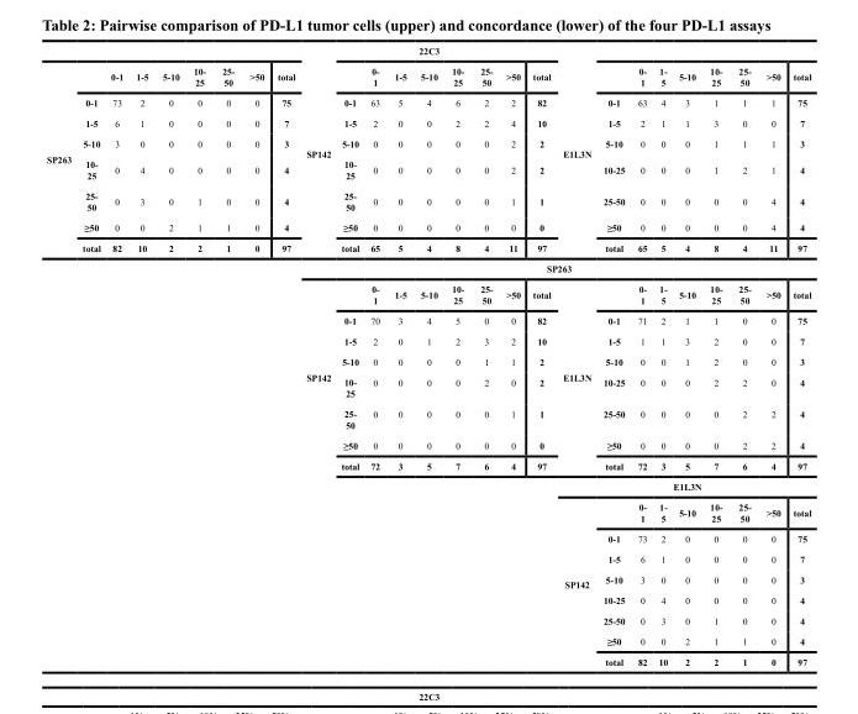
<table><tbody><tr><td colspan="27">22C3</td></tr><tr><td rowspan="26">SP263</td><td></td><td>0-1</td><td>1-5</td><td>5-10</td><td>10- 25</td><td>25- 50</td><td>&gt;50</td><td>total</td><td rowspan="8">SP142</td><td></td><td>0- 1</td><td>1-5</td><td>5-10</td><td>10- 25</td><td>25- 50</td><td>&gt;50</td><td>total</td><td rowspan="8">E1L3N</td><td></td><td>0- 1</td><td>1- 5</td><td>5-10</td><td>10- 25</td><td>25- 50</td><td>&gt;50</td><td>total</td></tr><tr><td>0-1</td><td>73</td><td>2</td><td>0</td><td>0</td><td>0</td><td>0</td><td>75</td><td>0-1</td><td>63</td><td>5</td><td>4</td><td>6</td><td>2</td><td>2</td><td>82</td><td>0-1</td><td>63</td><td>4</td><td>3</td><td>1</td><td>1</td><td>1</td><td>75</td></tr><tr><td>1-5</td><td>6</td><td>1</td><td>0</td><td>0</td><td>0</td><td>0</td><td>7</td><td>1-5</td><td>2</td><td>0</td><td>0</td><td>2</td><td>2</td><td>4</td><td>10</td><td>1-5</td><td>2</td><td>1</td><td>1</td><td>3</td><td>0</td><td>0</td><td>7</td></tr><tr><td>5-10</td><td>3</td><td>0</td><td>0</td><td>0</td><td>0</td><td>0</td><td>3</td><td>5-10</td><td>0</td><td>0</td><td>0</td><td>0</td><td>0</td><td>2</td><td>2</td><td>5-10</td><td>0</td><td>0</td><td>0</td><td>1</td><td>1</td><td>1</td><td>3</td></tr><tr><td>10- 25</td><td>0</td><td>4</td><td>0</td><td>0</td><td>0</td><td>0</td><td>4</td><td>10- 25</td><td>0</td><td>0</td><td>0</td><td>0</td><td>0</td><td>2</td><td>2</td><td>10-25</td><td>0</td><td>0</td><td>0</td><td>1</td><td>2</td><td>1</td><td>4</td></tr><tr><td>25- 50</td><td>0</td><td>3</td><td>0</td><td>1</td><td>0</td><td>0</td><td>4</td><td>25- 50</td><td>0</td><td>0</td><td>0</td><td>0</td><td>0</td><td>1</td><td>1</td><td>25-50</td><td>0</td><td>0</td><td>0</td><td>0</td><td>0</td><td>4</td><td>4</td></tr><tr><td>≥50</td><td>0</td><td>0</td><td>2</td><td>1</td><td>1</td><td>0</td><td>4</td><td>≥50</td><td>0</td><td>0</td><td>0</td><td>0</td><td>0</td><td>0</td><td>0</td><td>≥50</td><td>0</td><td>0</td><td>0</td><td>0</td><td>0</td><td>4</td><td>4</td></tr><tr><td>total</td><td>82</td><td>10</td><td>2</td><td>2</td><td>1</td><td>0</td><td>97</td><td>total</td><td>65</td><td>5</td><td>4</td><td>8</td><td>4</td><td>11</td><td>97</td><td>total</td><td>65</td><td>5</td><td>4</td><td>8</td><td>4</td><td>11</td><td>97</td></tr><tr><td></td><td></td><td></td><td></td><td></td><td></td><td></td><td></td><td colspan="18">SP263</td></tr><tr><td></td><td></td><td></td><td></td><td></td><td></td><td></td><td></td><td rowspan="8">SP142</td><td></td><td>0- 1</td><td>1-5</td><td>5-10</td><td>10- 25</td><td>25- 50</td><td>&gt;50</td><td>total</td><td rowspan="8">E1L3N</td><td></td><td>0- 1</td><td>1- 5</td><td>5-10</td><td>10- 25</td><td>25- 50</td><td>&gt;50</td><td>total</td></tr><tr><td></td><td></td><td></td><td></td><td></td><td></td><td></td><td></td><td>0-1</td><td>70</td><td>3</td><td>4</td><td>5</td><td>0</td><td>0</td><td>82</td><td>0-1</td><td>71</td><td>2</td><td>1</td><td>1</td><td>0</td><td>0</td><td>75</td></tr><tr><td></td><td></td><td></td><td></td><td></td><td></td><td></td><td></td><td>1-5</td><td>2</td><td>0</td><td>1</td><td>2</td><td>3</td><td>2</td><td>10</td><td>1-5</td><td>1</td><td>1</td><td>3</td><td>2</td><td>0</td><td>0</td><td>7</td></tr><tr><td></td><td></td><td></td><td></td><td></td><td></td><td></td><td></td><td>5-10</td><td>0</td><td>0</td><td>0</td><td>0</td><td>1</td><td>1</td><td>2</td><td>5-10</td><td>0</td><td>0</td><td>1</td><td>2</td><td>0</td><td>0</td><td>3</td></tr><tr><td></td><td></td><td></td><td></td><td></td><td></td><td></td><td></td><td>10- 25</td><td>0</td><td>0</td><td>0</td><td>0</td><td>2</td><td>0</td><td>2</td><td>10-25</td><td>0</td><td>0</td><td>0</td><td>2</td><td>2</td><td>0</td><td>4</td></tr><tr><td></td><td></td><td></td><td></td><td></td><td></td><td></td><td></td><td>25- 50</td><td>0</td><td>0</td><td>0</td><td>0</td><td>0</td><td>1</td><td>1</td><td>25-50</td><td>0</td><td>0</td><td>0</td><td>0</td><td>2</td><td>2</td><td>4</td></tr><tr><td></td><td></td><td></td><td></td><td></td><td></td><td></td><td></td><td>≥50</td><td>0</td><td>0</td><td>0</td><td>0</td><td>0</td><td>0</td><td>0</td><td>≥50</td><td>0</td><td>0</td><td>0</td><td>0</td><td>2</td><td>2</td><td>4</td></tr><tr><td></td><td></td><td></td><td></td><td></td><td></td><td></td><td></td><td>total</td><td>72</td><td>3</td><td>5</td><td>7</td><td>6</td><td>4</td><td>97</td><td>total</td><td>72</td><td>3</td><td>5</td><td>7</td><td>6</td><td>4</td><td>97</td></tr><tr><td></td><td></td><td></td><td></td><td></td><td></td><td></td><td></td><td></td><td></td><td></td><td></td><td></td><td></td><td></td><td></td><td></td><td colspan="9">E1L3N</td></tr><tr><td></td><td></td><td></td><td></td><td></td><td></td><td></td><td></td><td></td><td></td><td></td><td></td><td></td><td></td><td></td><td></td><td></td><td rowspan="8">SP142</td><td></td><td>0- 1</td><td>1- 5</td><td>5-10</td><td>10- 25</td><td>25- 50</td><td>&gt;50</td><td>total</td></tr><tr><td></td><td></td><td></td><td></td><td></td><td></td><td></td><td></td><td></td><td></td><td></td><td></td><td></td><td></td><td></td><td></td><td></td><td>0-1</td><td>73</td><td>2</td><td>0</td><td>0</td><td>0</td><td>0</td><td>75</td></tr><tr><td></td><td></td><td></td><td></td><td></td><td></td><td></td><td></td><td></td><td></td><td></td><td></td><td></td><td></td><td></td><td></td><td></td><td>1-5</td><td>6</td><td>1</td><td>0</td><td>0</td><td>0</td><td>0</td><td>7</td></tr><tr><td></td><td></td><td></td><td></td><td></td><td></td><td></td><td></td><td></td><td></td><td></td><td></td><td></td><td></td><td></td><td></td><td></td><td>5-10</td><td>3</td><td>0</td><td>0</td><td>0</td><td>0</td><td>0</td><td>3</td></tr><tr><td></td><td></td><td></td><td></td><td></td><td></td><td></td><td></td><td></td><td></td><td></td><td></td><td></td><td></td><td></td><td></td><td></td><td>10-25</td><td>0</td><td>4</td><td>0</td><td>0</td><td>0</td><td>0</td><td>4</td></tr><tr><td></td><td></td><td></td><td></td><td></td><td></td><td></td><td></td><td></td><td></td><td></td><td></td><td></td><td></td><td></td><td></td><td></td><td>25-50</td><td>0</td><td>3</td><td>0</td><td>1</td><td>0</td><td>0</td><td>4</td></tr><tr><td></td><td></td><td></td><td></td><td></td><td></td><td></td><td></td><td></td><td></td><td></td><td></td><td></td><td></td><td></td><td></td><td></td><td>≥50</td><td>0</td><td>0</td><td>2</td><td>1</td><td>1</td><td>0</td><td>4</td></tr><tr><td></td><td></td><td></td><td></td><td></td><td></td><td></td><td></td><td></td><td></td><td></td><td></td><td></td><td></td><td></td><td></td><td></td><td>total</td><td>82</td><td>10</td><td>2</td><td>2</td><td>1</td><td>0</td><td>97</td></tr></tbody></table>